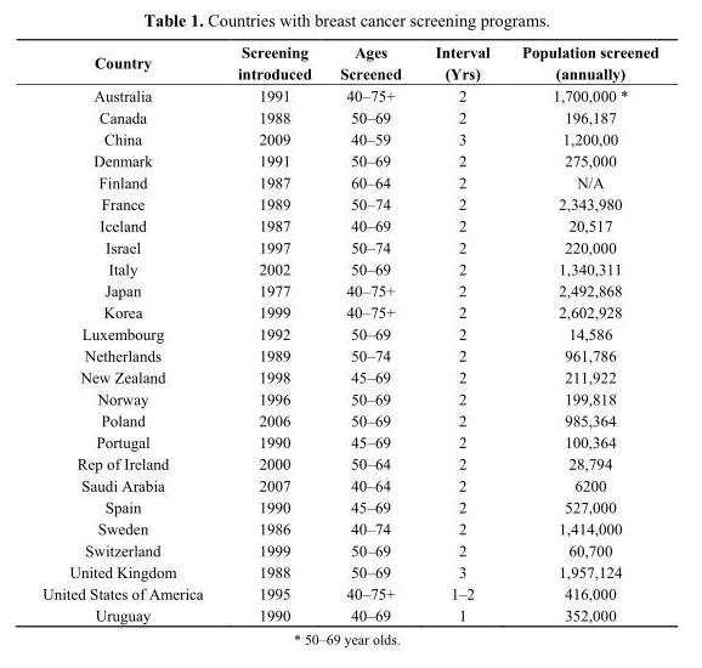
<table><thead><tr><td>Country</td><td>Screening introduced</td><td>Ages Screened</td><td>Interval (Yrs)</td><td>Population screened (annually)</td></tr></thead><tbody><tr><td>Australia</td><td>1991</td><td>40–75+</td><td>2</td><td>1,700,000 *</td></tr><tr><td>Canada</td><td>1988</td><td>50–69</td><td>2</td><td>196,187</td></tr><tr><td>China</td><td>2009</td><td>40–59</td><td>3</td><td>1,200,00</td></tr><tr><td>Denmark</td><td>1991</td><td>50–69</td><td>2</td><td>275,000</td></tr><tr><td>Finland</td><td>1987</td><td>60–64</td><td>2</td><td>N/A</td></tr><tr><td>France</td><td>1989</td><td>50–74</td><td>2</td><td>2,343,980</td></tr><tr><td>Iceland</td><td>1987</td><td>40–69</td><td>2</td><td>20,517</td></tr><tr><td>Israel</td><td>1997</td><td>50–74</td><td>2</td><td>220,000</td></tr><tr><td>Italy</td><td>2002</td><td>50–69</td><td>2</td><td>1,340,311</td></tr><tr><td>Japan</td><td>1977</td><td>40–75+</td><td>2</td><td>2,492,868</td></tr><tr><td>Korea</td><td>1999</td><td>40–75+</td><td>2</td><td>2,602,928</td></tr><tr><td>Luxembourg</td><td>1992</td><td>50–69</td><td>2</td><td>14,586</td></tr><tr><td>Netherlands</td><td>1989</td><td>50–74</td><td>2</td><td>961,786</td></tr><tr><td>New Zealand</td><td>1998</td><td>45–69</td><td>2</td><td>211,922</td></tr><tr><td>Norway</td><td>1996</td><td>50–69</td><td>2</td><td>199,818</td></tr><tr><td>Poland</td><td>2006</td><td>50–69</td><td>2</td><td>985,364</td></tr><tr><td>Portugal</td><td>1990</td><td>45–69</td><td>2</td><td>100,364</td></tr><tr><td>Rep of Ireland</td><td>2000</td><td>50–64</td><td>2</td><td>28,794</td></tr><tr><td>Saudi Arabia</td><td>2007</td><td>40–64</td><td>2</td><td>6200</td></tr><tr><td>Spain</td><td>1990</td><td>45–69</td><td>2</td><td>527,000</td></tr><tr><td>Sweden</td><td>1986</td><td>40–74</td><td>2</td><td>1,414,000</td></tr><tr><td>Switzerland</td><td>1999</td><td>50–69</td><td>2</td><td>60,700</td></tr><tr><td>United Kingdom</td><td>1988</td><td>50–69</td><td>3</td><td>1,957,124</td></tr><tr><td>United States of America</td><td>1995</td><td>40–75+</td><td>1–2</td><td>416,000</td></tr><tr><td>Uruguay</td><td>1990</td><td>40–69</td><td>1</td><td>352,000</td></tr></tbody></table>